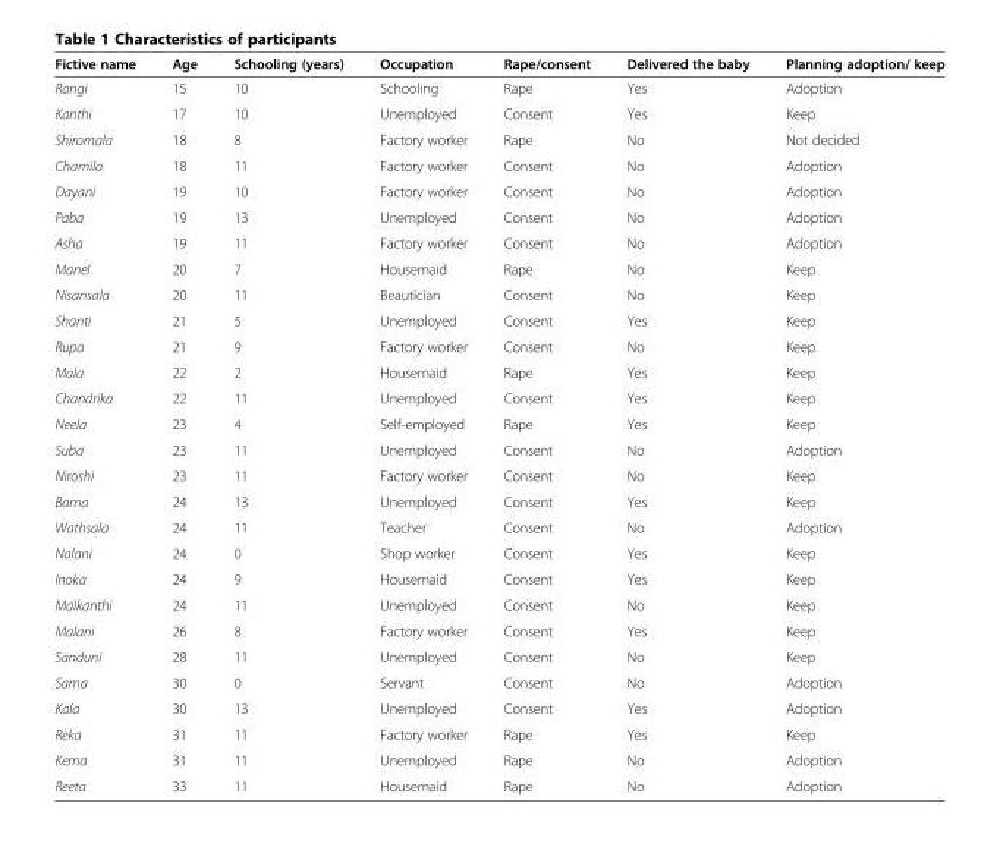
<table><thead><tr><td>Fictive name</td><td>Age</td><td>Schooling (years)</td><td>Occupation</td><td>Rape/consent</td><td>Delivered the baby</td><td>Planning adoption/ keep</td></tr></thead><tbody><tr><td>Rangi</td><td>15</td><td>10</td><td>Schooling</td><td>Rape</td><td>Yes</td><td>Adoption</td></tr><tr><td>Kanthi</td><td>17</td><td>10</td><td>Unemployed</td><td>Consent</td><td>Yes</td><td>Keep</td></tr><tr><td>Shiromala</td><td>18</td><td>8</td><td>Factory worker</td><td>Rape</td><td>No</td><td>Not decided</td></tr><tr><td>Chamila</td><td>18</td><td>11</td><td>Factory worker</td><td>Consent</td><td>No</td><td>Adoption</td></tr><tr><td>Dayani</td><td>19</td><td>10</td><td>Factory worker</td><td>Consent</td><td>No</td><td>Adoption</td></tr><tr><td>Paba</td><td>19</td><td>13</td><td>Unemployed</td><td>Consent</td><td>No</td><td>Adoption</td></tr><tr><td>Asha</td><td>19</td><td>11</td><td>Factory worker</td><td>Consent</td><td>No</td><td>Adoption</td></tr><tr><td>Manel</td><td>20</td><td>7</td><td>Housemaid</td><td>Rape</td><td>No</td><td>Keep</td></tr><tr><td>Nisansala</td><td>20</td><td>11</td><td>Beautician</td><td>Consent</td><td>No</td><td>Keep</td></tr><tr><td>Shanti</td><td>21</td><td>5</td><td>Unemployed</td><td>Consent</td><td>Yes</td><td>Keep</td></tr><tr><td>Rupa</td><td>21</td><td>9</td><td>Factory worker</td><td>Consent</td><td>No</td><td>Keep</td></tr><tr><td>Mala</td><td>22</td><td>2</td><td>Housemaid</td><td>Rape</td><td>Yes</td><td>Keep</td></tr><tr><td>Chandrika</td><td>22</td><td>11</td><td>Unemployed</td><td>Consent</td><td>Yes</td><td>Keep</td></tr><tr><td>Neela</td><td>23</td><td>4</td><td>Self-employed</td><td>Rape</td><td>Yes</td><td>Keep</td></tr><tr><td>Suba</td><td>23</td><td>11</td><td>Unemployed</td><td>Consent</td><td>No</td><td>Adoption</td></tr><tr><td>Niroshi</td><td>23</td><td>11</td><td>Factory worker</td><td>Consent</td><td>No</td><td>Keep</td></tr><tr><td>Bama</td><td>24</td><td>13</td><td>Unemployed</td><td>Consent</td><td>Yes</td><td>Keep</td></tr><tr><td>Wathsala</td><td>24</td><td>11</td><td>Teacher</td><td>Consent</td><td>No</td><td>Adoption</td></tr><tr><td>Nalani</td><td>24</td><td>0</td><td>Shop worker</td><td>Consent</td><td>Yes</td><td>Keep</td></tr><tr><td>Inoka</td><td>24</td><td>9</td><td>Housemaid</td><td>Consent</td><td>Yes</td><td>Keep</td></tr><tr><td>Malkanthi</td><td>24</td><td>11</td><td>Unemployed</td><td>Consent</td><td>No</td><td>Keep</td></tr><tr><td>Malani</td><td>26</td><td>8</td><td>Factory worker</td><td>Consent</td><td>Yes</td><td>Keep</td></tr><tr><td>Sanduni</td><td>28</td><td>11</td><td>Unemployed</td><td>Consent</td><td>No</td><td>Keep</td></tr><tr><td>Sama</td><td>30</td><td>0</td><td>Servant</td><td>Consent</td><td>No</td><td>Adoption</td></tr><tr><td>Kala</td><td>30</td><td>13</td><td>Unemployed</td><td>Consent</td><td>Yes</td><td>Adoption</td></tr><tr><td>Reka</td><td>31</td><td>11</td><td>Factory worker</td><td>Rape</td><td>Yes</td><td>Keep</td></tr><tr><td>Kema</td><td>31</td><td>11</td><td>Unemployed</td><td>Rape</td><td>No</td><td>Adoption</td></tr><tr><td>Reeta</td><td>33</td><td>11</td><td>Housemaid</td><td>Rape</td><td>No</td><td>Adoption</td></tr></tbody></table>